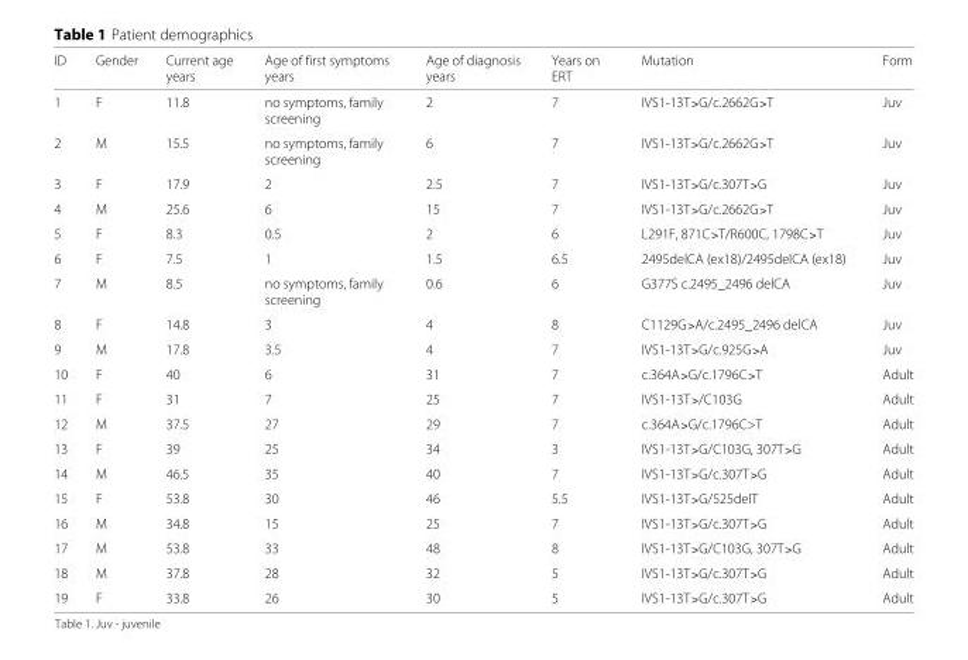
<table><thead><tr><td>ID</td><td>Gender</td><td>Current age years</td><td>Age of first symptoms years</td><td>Age of diagnosis years</td><td>Years on ERT</td><td>Mutation</td><td>Form</td></tr></thead><tbody><tr><td>1</td><td>F</td><td>11.8</td><td>no symptoms, family screening</td><td>2</td><td>7</td><td>IVS1-13T&gt;G/c.2662G&gt;T</td><td>Juv</td></tr><tr><td>2</td><td>M</td><td>15.5</td><td>no symptoms, family screening</td><td>6</td><td>7</td><td>IVS1-13T&gt;G/c.2662G&gt;T</td><td>Juv</td></tr><tr><td>3</td><td>F</td><td>17.9</td><td>2</td><td>2.5</td><td>7</td><td>IVS1-13T&gt;G/c.307T&gt;G</td><td>Juv</td></tr><tr><td>4</td><td>M</td><td>25.6</td><td>6</td><td>15</td><td>7</td><td>IVS1-13T&gt;G/c.2662G&gt;T</td><td>Juv</td></tr><tr><td>5</td><td>F</td><td>8.3</td><td>0.5</td><td>2</td><td>6</td><td>L291F, 871C&gt;T/R600C, 1798C&gt;T</td><td>Juv</td></tr><tr><td>6</td><td>F</td><td>7.5</td><td>1</td><td>1.5</td><td>6.5</td><td>2495delCA (ex18)/2495delCA (ex18)</td><td>Juv</td></tr><tr><td>7</td><td>M</td><td>8.5</td><td>no symptoms, family screening</td><td>0.6</td><td>6</td><td>G377S c.2495_2496 delCA</td><td>Juv</td></tr><tr><td>8</td><td>F</td><td>14.8</td><td>3</td><td>4</td><td>8</td><td>C1129G&gt;A/c.2495_2496 delCA</td><td>Juv</td></tr><tr><td>9</td><td>M</td><td>17.8</td><td>3.5</td><td>4</td><td>7</td><td>IVS1-13T&gt;G/c.925G&gt;A</td><td>Juv</td></tr><tr><td>10</td><td>F</td><td>40</td><td>6</td><td>31</td><td>7</td><td>c.364A&gt;G/c.1796C&gt;T</td><td>Adult</td></tr><tr><td>11</td><td>F</td><td>31</td><td>7</td><td>25</td><td>7</td><td>IVS1-13T&gt;/C103G</td><td>Adult</td></tr><tr><td>12</td><td>M</td><td>37.5</td><td>27</td><td>29</td><td>7</td><td>c.364A&gt;G/c.1796C&gt;T</td><td>Adult</td></tr><tr><td>13</td><td>F</td><td>39</td><td>25</td><td>34</td><td>3</td><td>IVS1-13T&gt;G/C103G, 307T&gt;G</td><td>Adult</td></tr><tr><td>14</td><td>M</td><td>46.5</td><td>35</td><td>40</td><td>7</td><td>IVS1-13T&gt;G/c.307T&gt;G</td><td>Adult</td></tr><tr><td>15</td><td>F</td><td>53.8</td><td>30</td><td>46</td><td>5.5</td><td>IVS1-13T&gt;G/525delT</td><td>Adult</td></tr><tr><td>16</td><td>M</td><td>34.8</td><td>15</td><td>25</td><td>7</td><td>IVS1-13T&gt;G/c.307T&gt;G</td><td>Adult</td></tr><tr><td>17</td><td>M</td><td>53.8</td><td>33</td><td>48</td><td>8</td><td>IVS1-13T&gt;G/C103G, 307T&gt;G</td><td>Adult</td></tr><tr><td>18</td><td>M</td><td>37.8</td><td>28</td><td>32</td><td>5</td><td>IVS1-13T&gt;G/c.307T&gt;G</td><td>Adult</td></tr><tr><td>19</td><td>F</td><td>33.8</td><td>26</td><td>30</td><td>5</td><td>IVS1-13T&gt;G/c.307T&gt;G</td><td>Adult</td></tr></tbody></table>